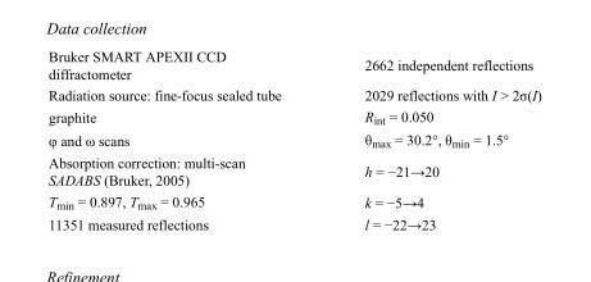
<table><tbody><tr><td>Bruker SMART APEXII CCD diffractometer</td><td>2662 independent reflections</td></tr><tr><td>Radiation source: fine-focus sealed tube</td><td>2029 reflections with I &gt; 2σ(I)</td></tr><tr><td>graphite</td><td>R<sub>int</sub> = 0.050</td></tr><tr><td>φ and ω scans</td><td>θ<sub>max</sub> = 30.2°, θ<sub>min</sub> = 1.5°</td></tr><tr><td>Absorption correction: multi-scan SADABS (Bruker, 2005)</td><td>h = −21→20</td></tr><tr><td>T<sub>min</sub> = 0.897, T<sub>max</sub> = 0.965</td><td>k = −5→4</td></tr><tr><td>11351 measured reflections</td><td>l = −22→23</td></tr></tbody></table>